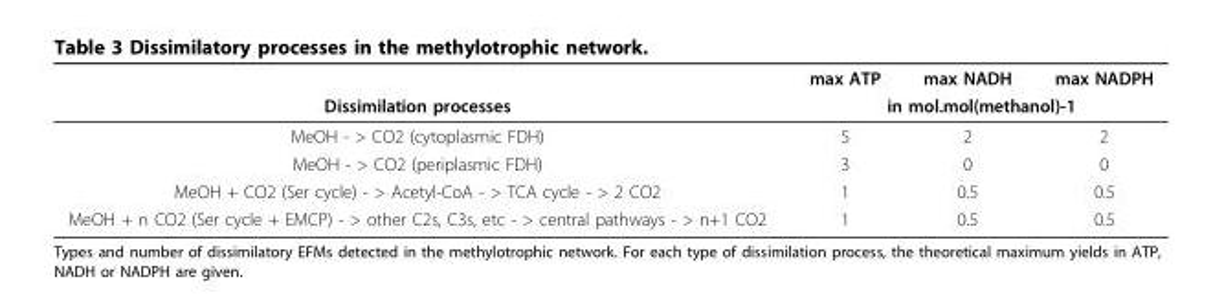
<table><thead><tr><td rowspan="2">Dissimilation processes</td><td>max ATP</td><td>max NADH</td><td>max NADPH</td></tr><tr><td colspan="3">in mol.mol(methanol)-1</td></tr></thead><tbody><tr><td>MeOH - &gt; CO2 (cytoplasmic FDH)</td><td>5</td><td>2</td><td>2</td></tr><tr><td>MeOH - &gt; CO2 (periplasmic FDH)</td><td>3</td><td>0</td><td>0</td></tr><tr><td>MeOH + CO2 (Ser cycle) - &gt; Acetyl-CoA - &gt; TCA cycle - &gt; 2 CO2</td><td>1</td><td>0.5</td><td>0.5</td></tr><tr><td>MeOH + n CO2 (Ser cycle + EMCP) - &gt; other C2s, C3s, etc - &gt; central pathways - &gt; n+1 CO2</td><td>1</td><td>0.5</td><td>0.5</td></tr></tbody></table>